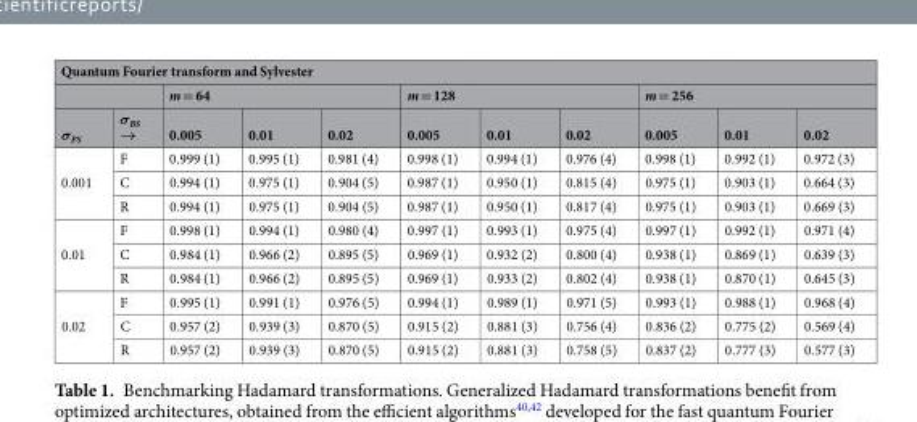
<table><thead><tr><td colspan="11">Quantum Fourier transform and Sylvester</td></tr><tr><td rowspan="2">σ<sub>PS</sub></td><td rowspan="2">σ<sub>BS</sub> →</td><td colspan="3">m = 64</td><td colspan="3">m = 128</td><td colspan="3">m = 256</td></tr><tr><td>0.005</td><td>0.01</td><td>0.02</td><td>0.005</td><td>0.01</td><td>0.02</td><td>0.005</td><td>0.01</td><td>0.02</td></tr></thead><tbody><tr><td rowspan="3">0.001</td><td>F</td><td>0.999 (1)</td><td>0.995 (1)</td><td>0.981 (4)</td><td>0.998 (1)</td><td>0.994 (1)</td><td>0.976 (4)</td><td>0.998 (1)</td><td>0.992 (1)</td><td>0.972 (3)</td></tr><tr><td>C</td><td>0.994 (1)</td><td>0.975 (1)</td><td>0.904 (5)</td><td>0.987 (1)</td><td>0.950 (1)</td><td>0.815 (4)</td><td>0.975 (1)</td><td>0.903 (1)</td><td>0.664 (3)</td></tr><tr><td>R</td><td>0.994 (1)</td><td>0.975 (1)</td><td>0.904 (5)</td><td>0.987 (1)</td><td>0.950 (1)</td><td>0.817 (4)</td><td>0.975 (1)</td><td>0.903 (1)</td><td>0.669 (3)</td></tr><tr><td rowspan="3">0.01</td><td>F</td><td>0.998 (1)</td><td>0.994 (1)</td><td>0.980 (4)</td><td>0.997 (1)</td><td>0.993 (1)</td><td>0.975 (4)</td><td>0.997 (1)</td><td>0.992 (1)</td><td>0.971 (4)</td></tr><tr><td>C</td><td>0.984 (1)</td><td>0.966 (2)</td><td>0.895 (5)</td><td>0.969 (1)</td><td>0.932 (2)</td><td>0.800 (4)</td><td>0.938 (1)</td><td>0.869 (1)</td><td>0.639 (3)</td></tr><tr><td>R</td><td>0.984 (1)</td><td>0.966 (2)</td><td>0.895 (5)</td><td>0.969 (1)</td><td>0.933 (2)</td><td>0.802 (4)</td><td>0.938 (1)</td><td>0.870 (1)</td><td>0.645 (3)</td></tr><tr><td rowspan="3">0.02</td><td>F</td><td>0.995 (1)</td><td>0.991 (1)</td><td>0.976 (5)</td><td>0.994 (1)</td><td>0.989 (1)</td><td>0.971 (5)</td><td>0.993 (1)</td><td>0.988 (1)</td><td>0.968 (4)</td></tr><tr><td>C</td><td>0.957 (2)</td><td>0.939 (3)</td><td>0.870 (5)</td><td>0.915 (2)</td><td>0.881 (3)</td><td>0.756 (4)</td><td>0.836 (2)</td><td>0.775 (2)</td><td>0.569 (4)</td></tr><tr><td>R</td><td>0.957 (2)</td><td>0.939 (3)</td><td>0.870 (5)</td><td>0.915 (2)</td><td>0.881 (3)</td><td>0.758 (5)</td><td>0.837 (2)</td><td>0.777 (3)</td><td>0.577 (3)</td></tr></tbody></table>